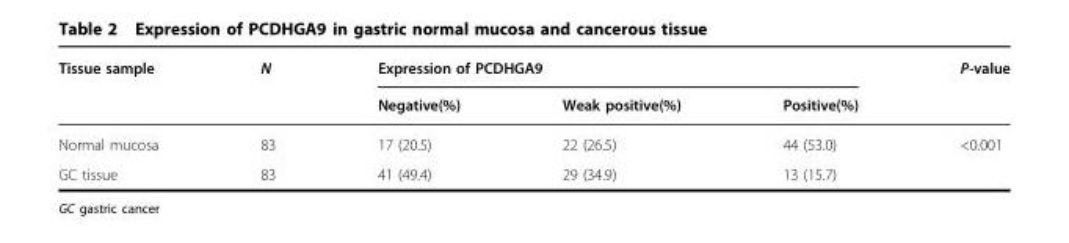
<table><thead><tr><td rowspan="2">Tissue sample</td><td rowspan="2">N</td><td colspan="3">Expression of PCDHGA9</td><td rowspan="2">P-value</td></tr><tr><td>Negative(%)</td><td>Weak positive(%)</td><td>Positive(%)</td></tr></thead><tbody><tr><td>Normal mucosa</td><td>83</td><td>17 (20.5)</td><td>22 (26.5)</td><td>44 (53.0)</td><td>&lt;0.001</td></tr><tr><td>GC tissue</td><td>83</td><td>41 (49.4)</td><td>29 (34.9)</td><td>13 (15.7)</td><td></td></tr></tbody></table>